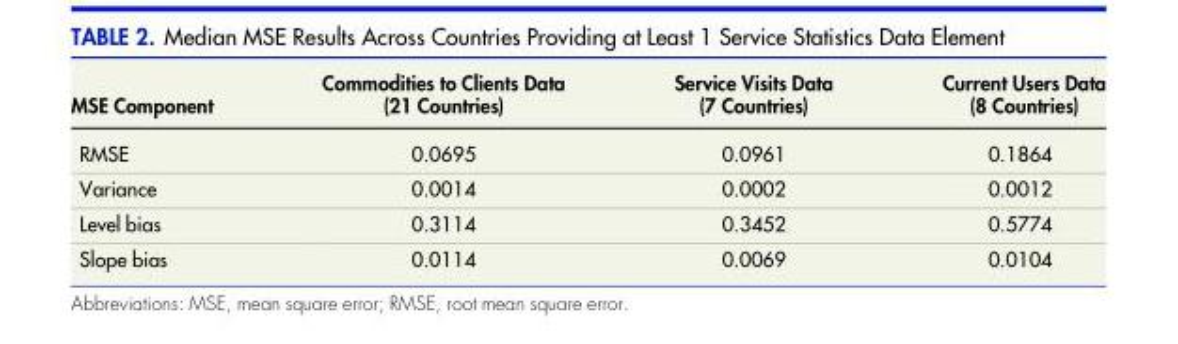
<table><thead><tr><td>MSE Component</td><td>Commodities to Clients Data (21 Countries)</td><td>Service Visits Data (7 Countries)</td><td>Current Users Data (8 Countries)</td></tr></thead><tbody><tr><td>RMSE</td><td>0.0695</td><td>0.0961</td><td>0.1864</td></tr><tr><td>Variance</td><td>0.0014</td><td>0.0002</td><td>0.0012</td></tr><tr><td>Level bias</td><td>0.3114</td><td>0.3452</td><td>0.5774</td></tr><tr><td>Slope bias</td><td>0.0114</td><td>0.0069</td><td>0.0104</td></tr></tbody></table>